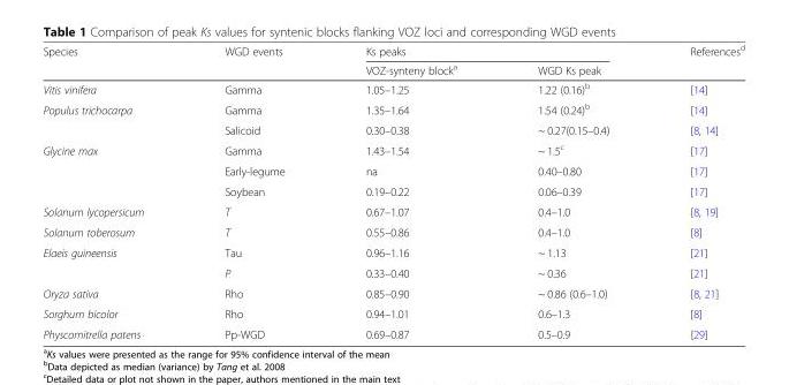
<table><thead><tr><td rowspan="2">Species</td><td rowspan="2">WGD events</td><td colspan="2">Ks peaks</td><td rowspan="2">References<sup>d</sup></td></tr><tr><td>VOZ-synteny block<sup>a</sup></td><td>WGD Ks peak</td></tr></thead><tbody><tr><td>Vitis vinifera</td><td>Gamma</td><td>1.05–1.25</td><td>1.22 (0.16)<sup>b</sup></td><td>[14]</td></tr><tr><td rowspan="2">Populus trichocarpa</td><td>Gamma</td><td>1.35–1.64</td><td>1.54 (0.24)<sup>b</sup></td><td>[14]</td></tr><tr><td>Salicoid</td><td>0.30–0.38</td><td>~ 0.27(0.15–0.4)</td><td>[8, 14]</td></tr><tr><td rowspan="3">Glycine max</td><td>Gamma</td><td>1.43–1.54</td><td>~ 1.5<sup>c</sup></td><td>[17]</td></tr><tr><td>Early-legume</td><td>na</td><td>0.40–0.80</td><td>[17]</td></tr><tr><td>Soybean</td><td>0.19–0.22</td><td>0.06–0.39</td><td>[17]</td></tr><tr><td>Solanum lycopersicum</td><td>T</td><td>0.67–1.07</td><td>0.4–1.0</td><td>[8, 19]</td></tr><tr><td>Solanum toberosum</td><td>T</td><td>0.55–0.86</td><td>0.4–1.0</td><td>[8]</td></tr><tr><td rowspan="2">Elaeis guineensis</td><td>Tau</td><td>0.96–1.16</td><td>~ 1.13</td><td>[21]</td></tr><tr><td>P</td><td>0.33–0.40</td><td>~ 0.36</td><td>[21]</td></tr><tr><td>Oryza sativa</td><td>Rho</td><td>0.85–0.90</td><td>~ 0.86 (0.6–1.0)</td><td>[8, 21]</td></tr><tr><td>Sorghum bicolor</td><td>Rho</td><td>0.94–1.01</td><td>0.6–1.3</td><td>[8]</td></tr><tr><td>Physcomitrella patens</td><td>Pp-WGD</td><td>0.69–0.87</td><td>0.5–0.9</td><td>[29]</td></tr></tbody></table>